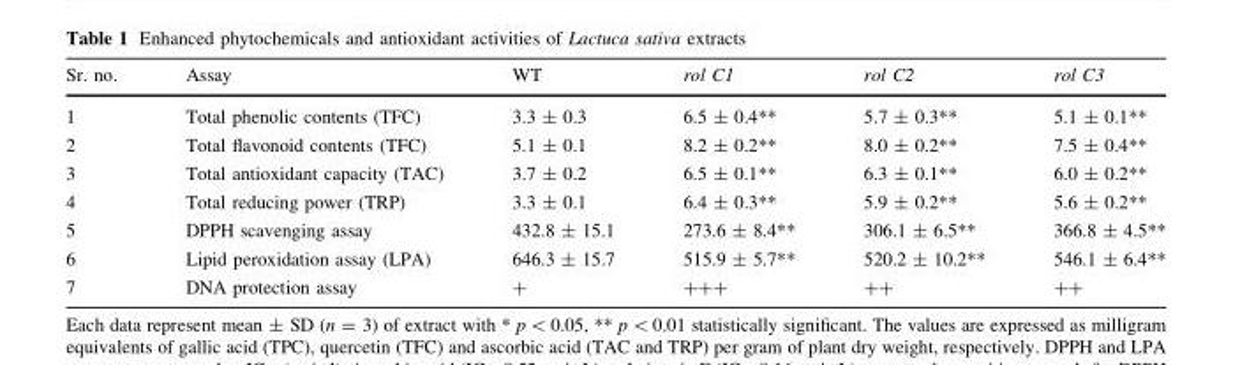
<table><thead><tr><td>Sr. no.</td><td>Assay</td><td>WT</td><td>rol C1</td><td>rol C2</td><td>rol C3</td></tr></thead><tbody><tr><td>1</td><td>Total phenolic contents (TFC)</td><td>3.3 ± 0.3</td><td>6.5 ± 0.4**</td><td>5.7 ± 0.3**</td><td>5.1 ± 0.1**</td></tr><tr><td>2</td><td>Total flavonoid contents (TFC)</td><td>5.1 ± 0.1</td><td>8.2 ± 0.2**</td><td>8.0 ± 0.2**</td><td>7.5 ± 0.4**</td></tr><tr><td>3</td><td>Total antioxidant capacity (TAC)</td><td>3.7 ± 0.2</td><td>6.5 ± 0.1**</td><td>6.3 ± 0.1**</td><td>6.0 ± 0.2**</td></tr><tr><td>4</td><td>Total reducing power (TRP)</td><td>3.3 ± 0.1</td><td>6.4 ± 0.3**</td><td>5.9 ± 0.2**</td><td>5.6 ± 0.2**</td></tr><tr><td>5</td><td>DPPH scavenging assay</td><td>432.8 ± 15.1</td><td>273.6 ± 8.4**</td><td>306.1 ± 6.5**</td><td>366.8 ± 4.5**</td></tr><tr><td>6</td><td>Lipid peroxidation assay (LPA)</td><td>646.3 ± 15.7</td><td>515.9 ± 5.7**</td><td>520.2 ± 10.2**</td><td>546.1 ± 6.4**</td></tr><tr><td>7</td><td>DNA protection assay</td><td>+</td><td>+++</td><td>++</td><td>++</td></tr></tbody></table>